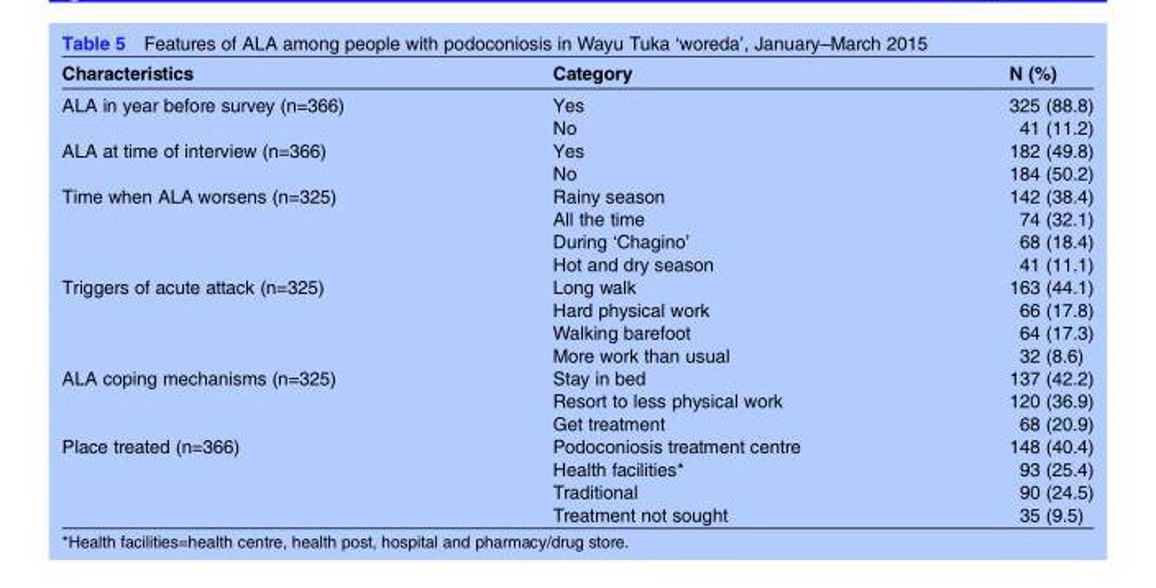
<table><thead><tr><td>Characteristics</td><td>Category</td><td>N (%)</td></tr></thead><tbody><tr><td rowspan="2">ALA in year before survey (n=366)</td><td>Yes</td><td>325 (88.8)</td></tr><tr><td>No</td><td>41 (11.2)</td></tr><tr><td rowspan="2">ALA at time of interview (n=366)</td><td>Yes</td><td>182 (49.8)</td></tr><tr><td>No</td><td>184 (50.2)</td></tr><tr><td rowspan="4">Time when ALA worsens (n=325)</td><td>Rainy season</td><td>142 (38.4)</td></tr><tr><td>All the time</td><td>74 (32.1)</td></tr><tr><td>During ‘Chagino’</td><td>68 (18.4)</td></tr><tr><td>Hot and dry season</td><td>41 (11.1)</td></tr><tr><td rowspan="4">Triggers of acute attack (n=325)</td><td>Long walk</td><td>163 (44.1)</td></tr><tr><td>Hard physical work</td><td>66 (17.8)</td></tr><tr><td>Walking barefoot</td><td>64 (17.3)</td></tr><tr><td>More work than usual</td><td>32 (8.6)</td></tr><tr><td rowspan="3">ALA coping mechanisms (n=325)</td><td>Stay in bed</td><td>137 (42.2)</td></tr><tr><td>Resort to less physical work</td><td>120 (36.9)</td></tr><tr><td>Get treatment</td><td>68 (20.9)</td></tr><tr><td rowspan="4">Place treated (n=366)</td><td>Podoconiosis treatment centre</td><td>148 (40.4)</td></tr><tr><td>Health facilities*</td><td>93 (25.4)</td></tr><tr><td>Traditional</td><td>90 (24.5)</td></tr><tr><td>Treatment not sought</td><td>35 (9.5)</td></tr></tbody></table>